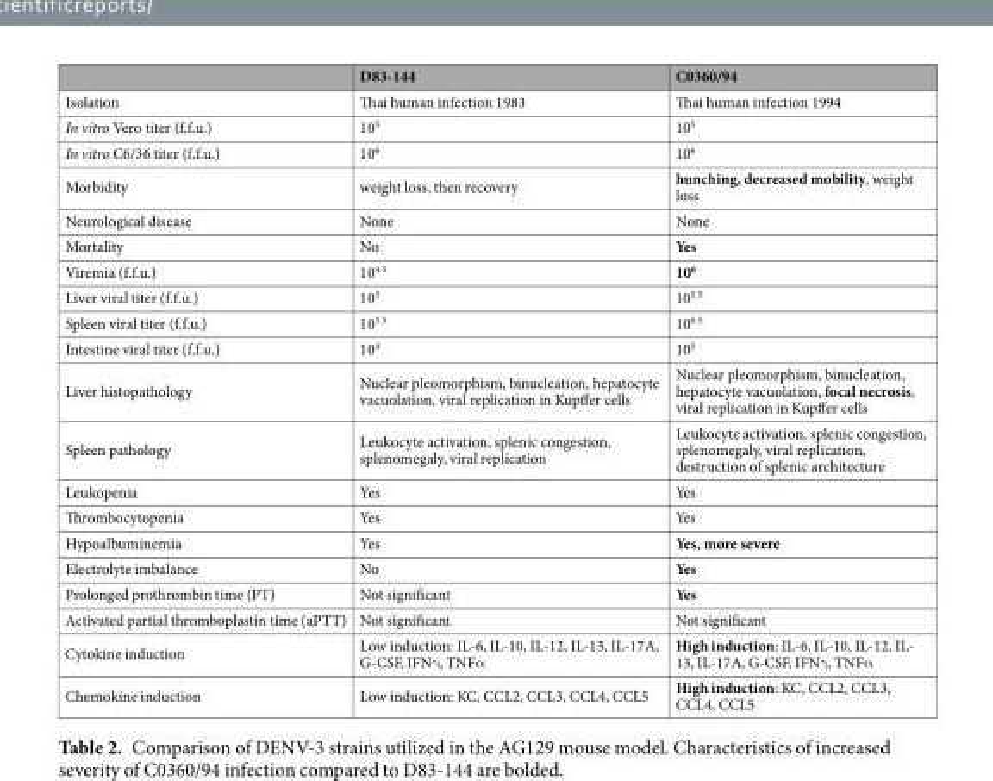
<table><thead><tr><td></td><td>D83-144</td><td>C0360/94</td></tr></thead><tbody><tr><td>Isolation</td><td>Thai human infection 1983</td><td>Thai human infection 1994</td></tr><tr><td>In vitro Vero titer (f.f.u.)</td><td>10<sup>5</sup></td><td>10<sup>5</sup></td></tr><tr><td>In vitro C6/36 titer (f.f.u.)</td><td>10<sup>6</sup></td><td>10<sup>6</sup></td></tr><tr><td>Morbidity</td><td>weight loss, then recovery</td><td>hunching, decreased mobility, weight loss</td></tr><tr><td>Neurological disease</td><td>None</td><td>None</td></tr><tr><td>Mortality</td><td>No</td><td>Yes</td></tr><tr><td>Viremia (f.f.u.)</td><td>10<sup>4.5</sup></td><td>10<sup>6</sup></td></tr><tr><td>Liver viral titer (f.f.u.)</td><td>10<sup>5</sup></td><td>10<sup>5.5</sup></td></tr><tr><td>Spleen viral titer (f.f.u.)</td><td>10<sup>5.5</sup></td><td>10<sup>6.5</sup></td></tr><tr><td>Intestine viral titer (f.f.u.)</td><td>10<sup>4</sup></td><td>10<sup>5</sup></td></tr><tr><td>Liver histopathology</td><td>Nuclear pleomorphism, binucleation, hepatocyte vacuolation, viral replication in Kupffer cells</td><td>Nuclear pleomorphism, binucleation, hepatocyte vacuolation, focal necrosis, viral replication in Kupffer cells</td></tr><tr><td>Spleen pathology</td><td>Leukocyte activation, splenic congestion, splenomegaly, viral replication</td><td>Leukocyte activation, splenic congestion, splenomegaly, viral replication, destruction of splenic architecture</td></tr><tr><td>Leukopenia</td><td>Yes</td><td>Yes</td></tr><tr><td>Thrombocytopenia</td><td>Yes</td><td>Yes</td></tr><tr><td>Hypoalbuminemia</td><td>Yes</td><td>Yes, more severe</td></tr><tr><td>Electrolyte imbalance</td><td>No</td><td>Yes</td></tr><tr><td>Prolonged prothrombin time (PT)</td><td>Not significant</td><td>Yes</td></tr><tr><td>Activated partial thromboplastin time (aPTT)</td><td>Not significant</td><td>Not significant</td></tr><tr><td>Cytokine induction</td><td>Low induction: IL-6, IL-10, IL-12, IL-13, IL-17A, G-CSF, IFNγ, TNFα</td><td>High induction: IL-6, IL-10, IL-12, IL- 13, IL-17A, G-CSF, IFNγ, TNFα</td></tr><tr><td>Chemokine induction</td><td>Low induction: KC, CCL2, CCL3, CCL4, CCL5</td><td>High induction: KC, CCL2, CCL3, CCL4, CCL5</td></tr></tbody></table>